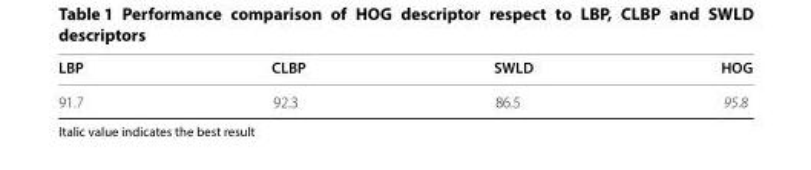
<table><thead><tr><td>LBP</td><td>CLBP</td><td>SWLD</td><td>HOG</td></tr></thead><tbody><tr><td>91.7</td><td>92.3</td><td>86.5</td><td>95.8</td></tr></tbody></table>